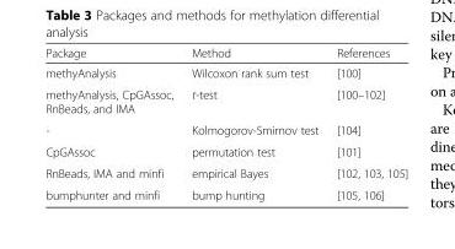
<table><thead><tr><td>Package</td><td>Method</td><td>References</td></tr></thead><tbody><tr><td>methyAnalysis</td><td>Wilcoxon rank sum test</td><td>[100]</td></tr><tr><td>methyAnalysis, CpGAssoc, RnBeads, and IMA</td><td>t-test</td><td>[100–102]</td></tr><tr><td>-</td><td>Kolmogorov-Smirnov test</td><td>[104]</td></tr><tr><td>CpGAssoc</td><td>permutation test</td><td>[101]</td></tr><tr><td>RnBeads, IMA and minfi</td><td>empirical Bayes</td><td>[102, 103, 105]</td></tr><tr><td>bumphunter and minfi</td><td>bump hunting</td><td>[105, 106]</td></tr></tbody></table>